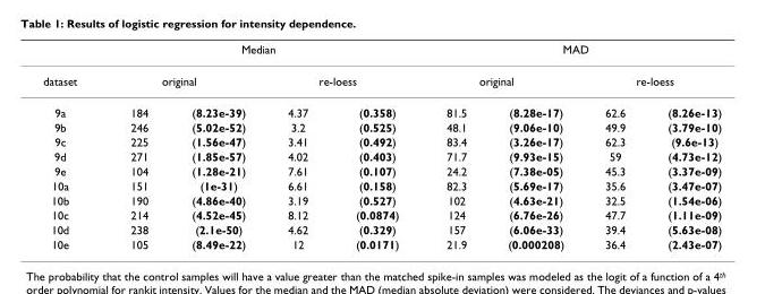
<table><thead><tr><td rowspan="3">dataset 9a</td><td colspan="4">Median</td><td colspan="4">MAD</td></tr><tr><td colspan="2">original</td><td colspan="2">re-loess</td><td colspan="2">original</td><td colspan="2">re-loess</td></tr><tr><td>184</td><td>(8.23e-39)</td><td>4.37</td><td>(0.358)</td><td>81.5</td><td>(8.28e-17)</td><td>62.6</td><td>(8.26e-13)</td></tr></thead><tbody><tr><td>9b</td><td>246</td><td>(5.02e-52)</td><td>3.2</td><td>(0.525)</td><td>48.1</td><td>(9.06e-10)</td><td>49.9</td><td>(3.79e-10)</td></tr><tr><td>9c</td><td>225</td><td>(1.56e-47)</td><td>3.41</td><td>(0.492)</td><td>83.4</td><td>(3.26e-17)</td><td>62.3</td><td>(9.6e-13)</td></tr><tr><td>9d</td><td>271</td><td>(1.85e-57)</td><td>4.02</td><td>(0.403)</td><td>71.7</td><td>(9.93e-15)</td><td>59</td><td>(4.73e-12)</td></tr><tr><td>9e</td><td>104</td><td>(1.28e-21)</td><td>7.61</td><td>(0.107)</td><td>24.2</td><td>(7.38e-05)</td><td>45.3</td><td>(3.37e-09)</td></tr><tr><td>10a</td><td>151</td><td>(1e-31)</td><td>6.61</td><td>(0.158)</td><td>82.3</td><td>(5.69e-17)</td><td>35.6</td><td>(3.47e-07)</td></tr><tr><td>10b</td><td>190</td><td>(4.86e-40)</td><td>3.19</td><td>(0.527)</td><td>102</td><td>(4.63e-21)</td><td>32.5</td><td>(1.54e-06)</td></tr><tr><td>10c</td><td>214</td><td>(4.52e-45)</td><td>8.12</td><td>(0.0874)</td><td>124</td><td>(6.76e-26)</td><td>47.7</td><td>(1.11e-09)</td></tr><tr><td>10d</td><td>238</td><td>(2.1e-50)</td><td>4.62</td><td>(0.329)</td><td>157</td><td>(6.06e-33)</td><td>39.4</td><td>(5.63e-08)</td></tr><tr><td>10e</td><td>105</td><td>(8.49e-22)</td><td>12</td><td>(0.0171)</td><td>21.9</td><td>(0.000208)</td><td>36.4</td><td>(2.43e-07)</td></tr></tbody></table>